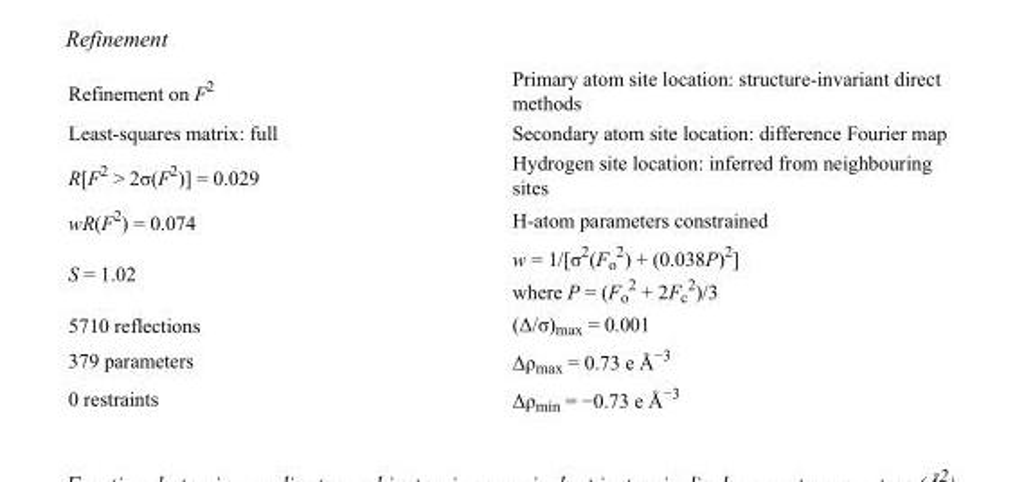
<table><tbody><tr><td>Refinement on F<sup>2</sup></td><td>Primary atom site location: structure-invariant direct methods</td></tr><tr><td>Least-squares matrix: full</td><td>Secondary atom site location: difference Fourier map</td></tr><tr><td>R[F<sup>2</sup> &gt; 2σ(F<sup>2</sup>)] = 0.029</td><td>Hydrogen site location: inferred from neighbouring sites</td></tr><tr><td>wR(F<sup>2</sup>) = 0.074</td><td>H-atom parameters constrained</td></tr><tr><td>S = 1.02</td><td>w = 1/[σ<sup>2</sup>(F<sub>o</sub> <sup>2</sup>) + (0.038P)<sup>2</sup>] where P = (F<sub>o</sub> <sup>2</sup> + 2F<sub>c</sub> <sup>2</sup>)/3</td></tr><tr><td>5710 reflections</td><td>(Δ/σ)<sub>max</sub> = 0.001</td></tr><tr><td>379 parameters</td><td>Δρ<sub>max</sub> = 0.73 e Å<sup>−3</sup></td></tr><tr><td>0 restraints</td><td>Δρ<sub>min</sub> = −0.73 e Å<sup>−3</sup></td></tr></tbody></table>